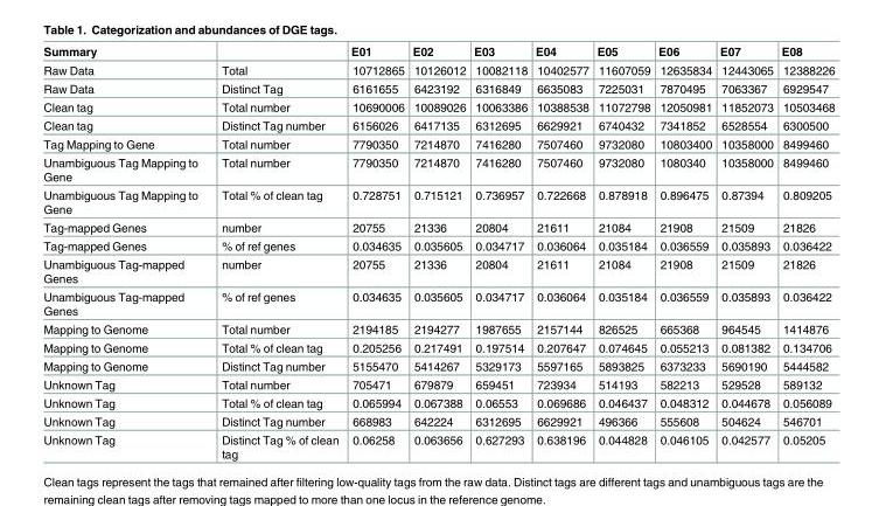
<table><thead><tr><td>Summary</td><td></td><td>E01</td><td>E02</td><td>E03</td><td>E04</td><td>E05</td><td>E06</td><td>E07</td><td>E08</td></tr></thead><tbody><tr><td>Raw Data</td><td>Total</td><td>10712865</td><td>10126012</td><td>10082118</td><td>10402577</td><td>11607059</td><td>12635834</td><td>12443065</td><td>12388226</td></tr><tr><td>Raw Data</td><td>Distinct Tag</td><td>6161655</td><td>6423192</td><td>6316849</td><td>6635083</td><td>7225031</td><td>7870495</td><td>7063367</td><td>6929547</td></tr><tr><td>Clean tag</td><td>Total number</td><td>10690006</td><td>10089026</td><td>10063386</td><td>10388538</td><td>11072798</td><td>12050981</td><td>11852073</td><td>10503468</td></tr><tr><td>Clean tag</td><td>Distinct Tag number</td><td>6156026</td><td>6417135</td><td>6312695</td><td>6629921</td><td>6740432</td><td>7341852</td><td>6528554</td><td>6300500</td></tr><tr><td>Tag Mapping to Gene</td><td>Total number</td><td>7790350</td><td>7214870</td><td>7416280</td><td>7507460</td><td>9732080</td><td>10803400</td><td>10358000</td><td>8499460</td></tr><tr><td>Unambiguous Tag Mapping to Gene</td><td>Total number</td><td>7790350</td><td>7214870</td><td>7416280</td><td>7507460</td><td>9732080</td><td>1080340</td><td>10358000</td><td>8499460</td></tr><tr><td>Unambiguous Tag Mapping to Gene</td><td>Total % of clean tag</td><td>0.728751</td><td>0.715121</td><td>0.736957</td><td>0.722668</td><td>0.878918</td><td>0.896475</td><td>0.87394</td><td>0.809205</td></tr><tr><td>Tag-mapped Genes</td><td>number</td><td>20755</td><td>21336</td><td>20804</td><td>21611</td><td>21084</td><td>21908</td><td>21509</td><td>21826</td></tr><tr><td>Tag-mapped Genes</td><td>% of ref genes</td><td>0.034635</td><td>0.035605</td><td>0.034717</td><td>0.036064</td><td>0.035184</td><td>0.036559</td><td>0.035893</td><td>0.036422</td></tr><tr><td>Unambiguous Tag-mapped Genes</td><td>number</td><td>20755</td><td>21336</td><td>20804</td><td>21611</td><td>21084</td><td>21908</td><td>21509</td><td>21826</td></tr><tr><td>Unambiguous Tag-mapped Genes</td><td>% of ref genes</td><td>0.034635</td><td>0.035605</td><td>0.034717</td><td>0.036064</td><td>0.035184</td><td>0.036559</td><td>0.035893</td><td>0.036422</td></tr><tr><td>Mapping to Genome</td><td>Total number</td><td>2194185</td><td>2194277</td><td>1987655</td><td>2157144</td><td>826525</td><td>665368</td><td>964545</td><td>1414876</td></tr><tr><td>Mapping to Genome</td><td>Total % of clean tag</td><td>0.205256</td><td>0.217491</td><td>0.197514</td><td>0.207647</td><td>0.074645</td><td>0.055213</td><td>0.081382</td><td>0.134706</td></tr><tr><td>Mapping to Genome</td><td>Distinct Tag number</td><td>5155470</td><td>5414267</td><td>5329173</td><td>5597165</td><td>5893825</td><td>6373233</td><td>5690190</td><td>5444582</td></tr><tr><td>Unknown Tag</td><td>Total number</td><td>705471</td><td>679879</td><td>659451</td><td>723934</td><td>514193</td><td>582213</td><td>529528</td><td>589132</td></tr><tr><td>Unknown Tag</td><td>Total % of clean tag</td><td>0.065994</td><td>0.067388</td><td>0.06553</td><td>0.069686</td><td>0.046437</td><td>0.048312</td><td>0.044678</td><td>0.056089</td></tr><tr><td>Unknown Tag</td><td>Distinct Tag number</td><td>668983</td><td>642224</td><td>6312695</td><td>6629921</td><td>496366</td><td>555608</td><td>504624</td><td>546701</td></tr><tr><td>Unknown Tag</td><td>Distinct Tag % of clean tag</td><td>0.06258</td><td>0.063656</td><td>0.627293</td><td>0.638196</td><td>0.044828</td><td>0.046105</td><td>0.042577</td><td>0.05205</td></tr></tbody></table>